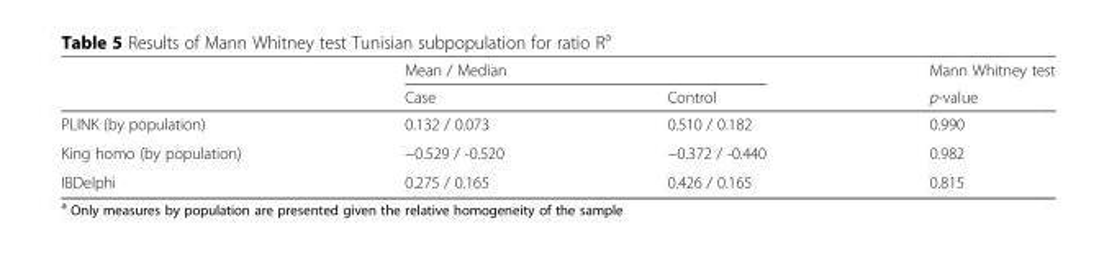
<table><thead><tr><td rowspan="2"></td><td colspan="2">Mean / Median</td><td rowspan="2">Mann Whitney test p-value</td></tr><tr><td>Case</td><td>Control</td></tr></thead><tbody><tr><td>PLINK (by population)</td><td>0.132 / 0.073</td><td>0.510 / 0.182</td><td>0.990</td></tr><tr><td>King homo (by population)</td><td>−0.529 / -0.520</td><td>−0.372 / -0.440</td><td>0.982</td></tr><tr><td>IBDelphi</td><td>0.275 / 0.165</td><td>0.426 / 0.165</td><td>0.815</td></tr></tbody></table>